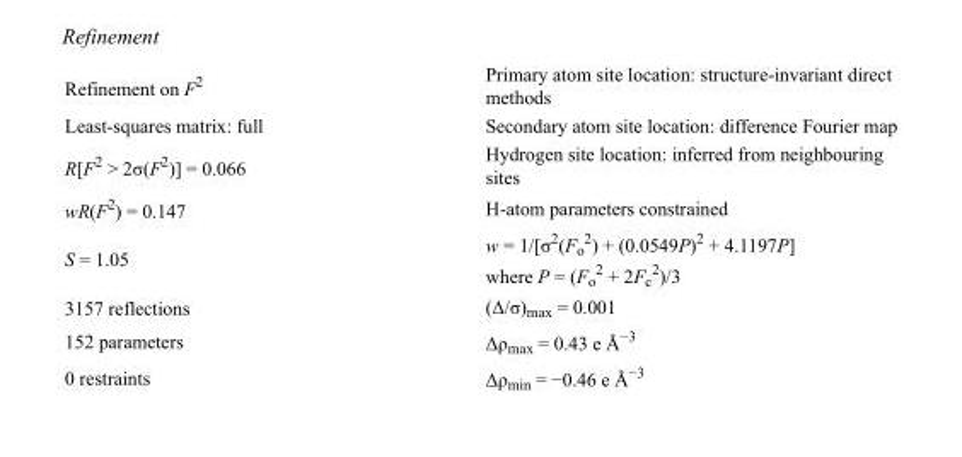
<table><tbody><tr><td>Refinement on F<sup>2</sup></td><td>Primary atom site location: structure-invariant direct methods</td></tr><tr><td>Least-squares matrix: full</td><td>Secondary atom site location: difference Fourier map</td></tr><tr><td>R[F<sup>2</sup> &gt; 2σ(F<sup>2</sup>)] = 0.066</td><td>Hydrogen site location: inferred from neighbouring sites</td></tr><tr><td>wR(F<sup>2</sup>) = 0.147</td><td>H-atom parameters constrained</td></tr><tr><td>S = 1.05</td><td>w = 1/[σ<sup>2</sup>(F<sub>o</sub> <sup>2</sup>) + (0.0549P)<sup>2</sup> + 4.1197P] where P = (F<sub>o</sub> <sup>2</sup> + 2F<sub>c</sub> <sup>2</sup>)/3</td></tr><tr><td>3157 reflections</td><td>(Δ/σ)<sub>max</sub> = 0.001</td></tr><tr><td>152 parameters</td><td>Δρ<sub>max</sub> = 0.43 e Å<sup>−3</sup></td></tr><tr><td>0 restraints</td><td>Δρ<sub>min</sub> = −0.46 e Å<sup>−3</sup></td></tr></tbody></table>